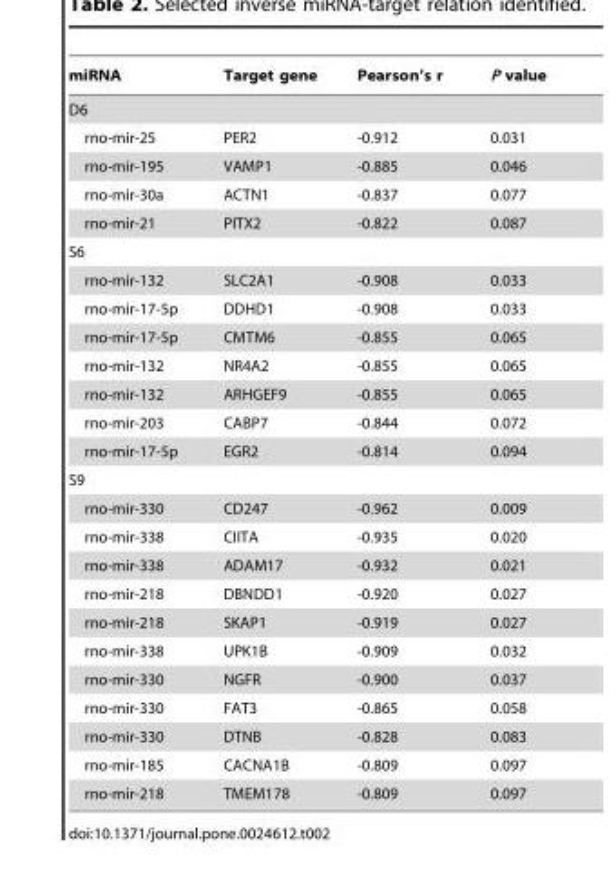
<table><thead><tr><td>miRNA</td><td>Target gene</td><td>Pearson’s r</td><td>P value</td></tr></thead><tbody><tr><td colspan="4">D6</td></tr><tr><td>rno-mir-25</td><td>PER2</td><td>-0.912</td><td>0.031</td></tr><tr><td>rno-mir-195</td><td>VAMP1</td><td>-0.885</td><td>0.046</td></tr><tr><td>rno-mir-30a</td><td>ACTN1</td><td>-0.837</td><td>0.077</td></tr><tr><td>rno-mir-21</td><td>PITX2</td><td>-0.822</td><td>0.087</td></tr><tr><td colspan="4">S6</td></tr><tr><td>rno-mir-132</td><td>SLC2A1</td><td>-0.908</td><td>0.033</td></tr><tr><td>rno-mir-17-5p</td><td>DDHD1</td><td>-0.908</td><td>0.033</td></tr><tr><td>rno-mir-17-5p</td><td>CMTM6</td><td>-0.855</td><td>0.065</td></tr><tr><td>rno-mir-132</td><td>NR4A2</td><td>-0.855</td><td>0.065</td></tr><tr><td>rno-mir-132</td><td>ARHGEF9</td><td>-0.855</td><td>0.065</td></tr><tr><td>rno-mir-203</td><td>CABP7</td><td>-0.844</td><td>0.072</td></tr><tr><td>rno-mir-17-5p</td><td>EGR2</td><td>-0.814</td><td>0.094</td></tr><tr><td colspan="4">S9</td></tr><tr><td>rno-mir-330</td><td>CD247</td><td>-0.962</td><td>0.009</td></tr><tr><td>rno-mir-338</td><td>CIITA</td><td>-0.935</td><td>0.020</td></tr><tr><td>rno-mir-338</td><td>ADAM17</td><td>-0.932</td><td>0.021</td></tr><tr><td>rno-mir-218</td><td>DBNDD1</td><td>-0.920</td><td>0.027</td></tr><tr><td>rno-mir-218</td><td>SKAP1</td><td>-0.919</td><td>0.027</td></tr><tr><td>rno-mir-338</td><td>UPK1B</td><td>-0.909</td><td>0.032</td></tr><tr><td>rno-mir-330</td><td>NGFR</td><td>-0.900</td><td>0.037</td></tr><tr><td>rno-mir-330</td><td>FAT3</td><td>-0.865</td><td>0.058</td></tr><tr><td>rno-mir-330</td><td>DTNB</td><td>-0.828</td><td>0.083</td></tr><tr><td>rno-mir-185</td><td>CACNA1B</td><td>-0.809</td><td>0.097</td></tr><tr><td>rno-mir-218</td><td>TMEM178</td><td>-0.809</td><td>0.097</td></tr></tbody></table>